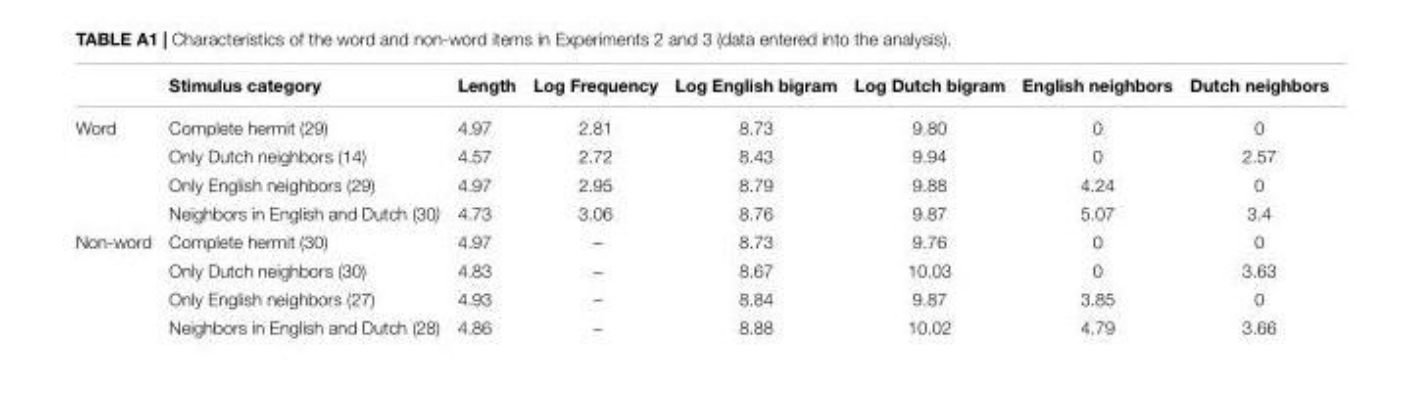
<table><thead><tr><td></td><td>Stimulus category</td><td>Length</td><td>Log Frequency</td><td>Log English bigram</td><td>Log Dutch bigram</td><td>English neighbors</td><td>Dutch neighbors</td></tr></thead><tbody><tr><td rowspan="4">Word</td><td>Complete hermit (29)</td><td>4.97</td><td>2.81</td><td>8.73</td><td>9.80</td><td>0</td><td>0</td></tr><tr><td>Only Dutch neighbors (14)</td><td>4.57</td><td>2.72</td><td>8.43</td><td>9.94</td><td>0</td><td>2.57</td></tr><tr><td>Only English neighbors (29)</td><td>4.97</td><td>2.95</td><td>8.79</td><td>9.88</td><td>4.24</td><td>0</td></tr><tr><td>Neighbors in English and Dutch (30)</td><td>4.73</td><td>3.06</td><td>8.76</td><td>9.87</td><td>5.07</td><td>3.4</td></tr><tr><td rowspan="4">Non-word</td><td>Complete hermit (30)</td><td>4.97</td><td>–</td><td>8.73</td><td>9.76</td><td>0</td><td>0</td></tr><tr><td>Only Dutch neighbors (30)</td><td>4.83</td><td>–</td><td>8.67</td><td>10.03</td><td>0</td><td>3.63</td></tr><tr><td>Only English neighbors (27)</td><td>4.93</td><td>–</td><td>8.84</td><td>9.87</td><td>3.85</td><td>0</td></tr><tr><td>Neighbors in English and Dutch (28)</td><td>4.86</td><td>–</td><td>8.88</td><td>10.02</td><td>4.79</td><td>3.66</td></tr></tbody></table>